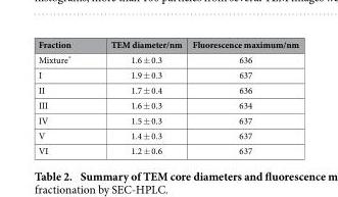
<table><thead><tr><td>Fraction</td><td>TEM diameter/nm</td><td>Fluorescence maximum/nm</td></tr></thead><tbody><tr><td>Mixture*</td><td>1.6 ± 0.3</td><td>636</td></tr><tr><td>I</td><td>1.9 ± 0.3</td><td>637</td></tr><tr><td>II</td><td>1.7 ± 0.4</td><td>636</td></tr><tr><td>III</td><td>1.6 ± 0.3</td><td>634</td></tr><tr><td>IV</td><td>1.5 ± 0.3</td><td>637</td></tr><tr><td>V</td><td>1.4 ± 0.3</td><td>637</td></tr><tr><td>VI</td><td>1.2 ± 0.6</td><td>637</td></tr></tbody></table>